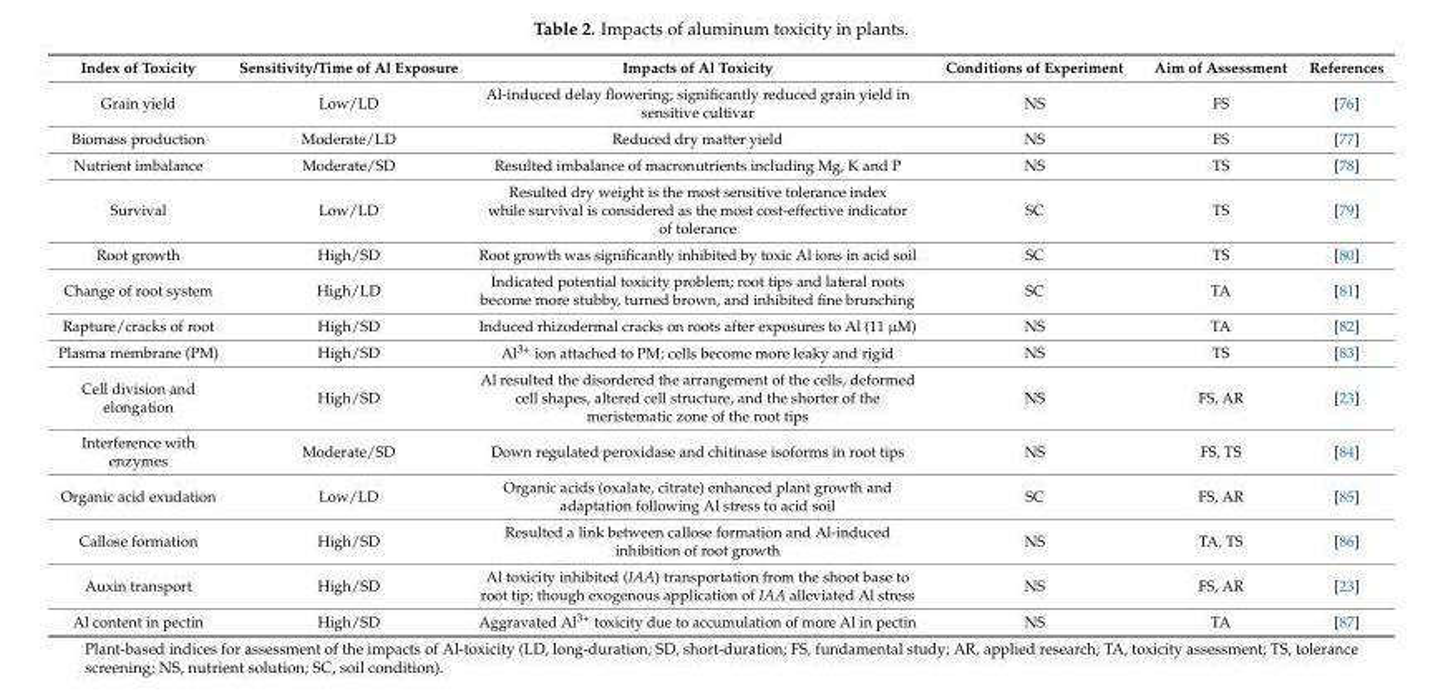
<table><thead><tr><td>Index of Toxicity</td><td>Sensitivity/Time of Al Exposure</td><td>Impacts of Al Toxicity</td><td>Conditions of Experiment</td><td>Aim of Assessment</td><td>References</td></tr></thead><tbody><tr><td>Grain yield</td><td>Low/LD</td><td>Al-induced delay flowering; significantly reduced grain yield in sensitive cultivar</td><td>NS</td><td>FS</td><td>[76]</td></tr><tr><td>Biomass production</td><td>Moderate/LD</td><td>Reduced dry matter yield</td><td>NS</td><td>FS</td><td>[77]</td></tr><tr><td>Nutrient imbalance</td><td>Moderate/SD</td><td>Resulted imbalance of macronutrients including Mg, K and P</td><td>NS</td><td>TS</td><td>[78]</td></tr><tr><td>Survival</td><td>Low/LD</td><td>Resulted dry weight is the most sensitive tolerance index while survival is considered as the most cost-effective indicator of tolerance</td><td>SC</td><td>TS</td><td>[79]</td></tr><tr><td>Root growth</td><td>High/SD</td><td>Root growth was significantly inhibited by toxic Al ions in acid soil</td><td>SC</td><td>TS</td><td>[80]</td></tr><tr><td>Change of root system</td><td>High/LD</td><td>Indicated potential toxicity problem; root tips and lateral roots become more stubby, turned brown, and inhibited fine brunching</td><td>SC</td><td>TA</td><td>[81]</td></tr><tr><td>Rapture/cracks of root</td><td>High/SD</td><td>Induced rhizodermal cracks on roots after exposures to Al (11 µM)</td><td>NS</td><td>TA</td><td>[82]</td></tr><tr><td>Plasma membrane (PM)</td><td>High/SD</td><td>Al<sup>3+</sup> ion attached to PM; cells become more leaky and rigid</td><td>NS</td><td>TS</td><td>[83]</td></tr><tr><td>Cell division and elongation</td><td>High/SD</td><td>Al resulted the disordered the arrangement of the cells, deformed cell shapes, altered cell structure, and the shorter of the meristematic zone of the root tips</td><td>NS</td><td>FS, AR</td><td>[23]</td></tr><tr><td>Interference with enzymes</td><td>Moderate/SD</td><td>Down regulated peroxidase and chitinase isoforms in root tips</td><td>NS</td><td>FS, TS</td><td>[84]</td></tr><tr><td>Organic acid exudation</td><td>Low/LD</td><td>Organic acids (oxalate, citrate) enhanced plant growth and adaptation following Al stress to acid soil</td><td>SC</td><td>FS, AR</td><td>[85]</td></tr><tr><td>Callose formation</td><td>High/SD</td><td>Resulted a link between callose formation and Al-induced inhibition of root growth</td><td>NS</td><td>TA, TS</td><td>[86]</td></tr><tr><td>Auxin transport</td><td>High/SD</td><td>Al toxicity inhibited (IAA) transportation from the shoot base to root tip; though exogenous application of IAA alleviated Al stress</td><td>NS</td><td>FS, AR</td><td>[23]</td></tr><tr><td>Al content in pectin</td><td>High/SD</td><td>Aggravated Al<sup>3+</sup> toxicity due to accumulation of more Al in pectin</td><td>NS</td><td>TA</td><td>[87]</td></tr></tbody></table>